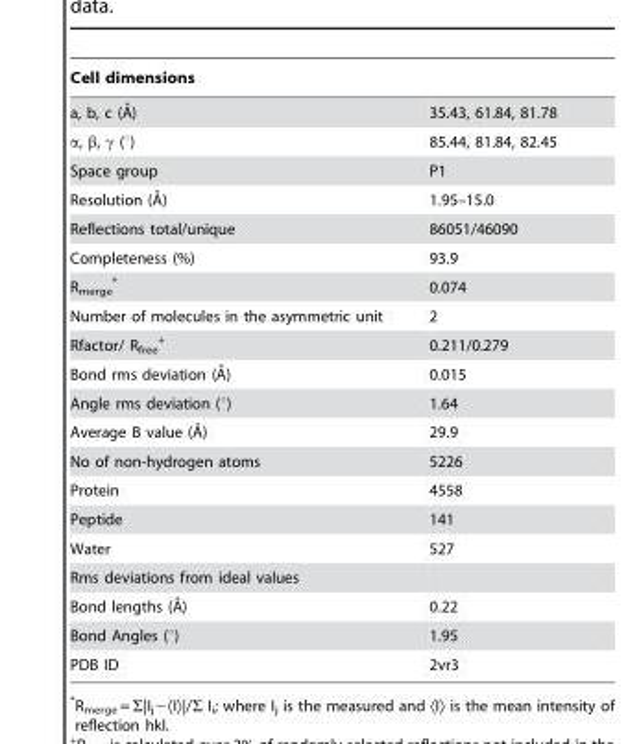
<table><thead><tr><td>Cell dimensions</td><td></td></tr></thead><tbody><tr><td>a, b, c (A˚)</td><td>35.43, 61.84, 81.78</td></tr><tr><td>α, β, γ (°)</td><td>85.44, 81.84, 82.45</td></tr><tr><td>Space group</td><td>P1</td></tr><tr><td>Resolution (A˚)</td><td>1.95–15.0</td></tr><tr><td>Reflections total/unique</td><td>86051/46090</td></tr><tr><td>Completeness (%)</td><td>93.9</td></tr><tr><td>R<sub>merge</sub> *</td><td>0.074</td></tr><tr><td>Number of molecules in the asymmetric unit</td><td>2</td></tr><tr><td>Rfactor/ R<sub>free</sub> +</td><td>0.211/0.279</td></tr><tr><td>Bond rms deviation (A˚)</td><td>0.015</td></tr><tr><td>Angle rms deviation (°)</td><td>1.64</td></tr><tr><td>Average B value (A˚)</td><td>29.9</td></tr><tr><td>No of non-hydrogen atoms</td><td>5226</td></tr><tr><td>Protein</td><td>4558</td></tr><tr><td>Peptide</td><td>141</td></tr><tr><td>Water</td><td>527</td></tr><tr><td colspan="2">Rms deviations from ideal values</td></tr><tr><td>Bond lengths (A˚)</td><td>0.22</td></tr><tr><td>Bond Angles (°)</td><td>1.95</td></tr><tr><td>PDB ID</td><td>2vr3</td></tr></tbody></table>